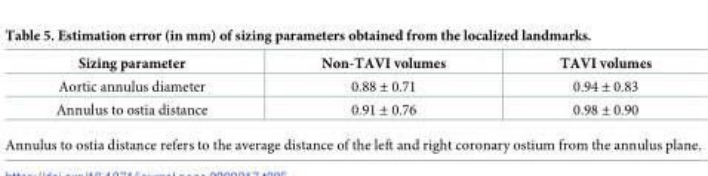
<table><thead><tr><td>Sizing parameter</td><td>Non-TAVI volumes</td><td>TAVI volumes</td></tr></thead><tbody><tr><td>Aortic annulus diameter</td><td>0.88 ± 0.71</td><td>0.94 ± 0.83</td></tr><tr><td>Annulus to ostia distance</td><td>0.91 ± 0.76</td><td>0.98 ± 0.90</td></tr></tbody></table>